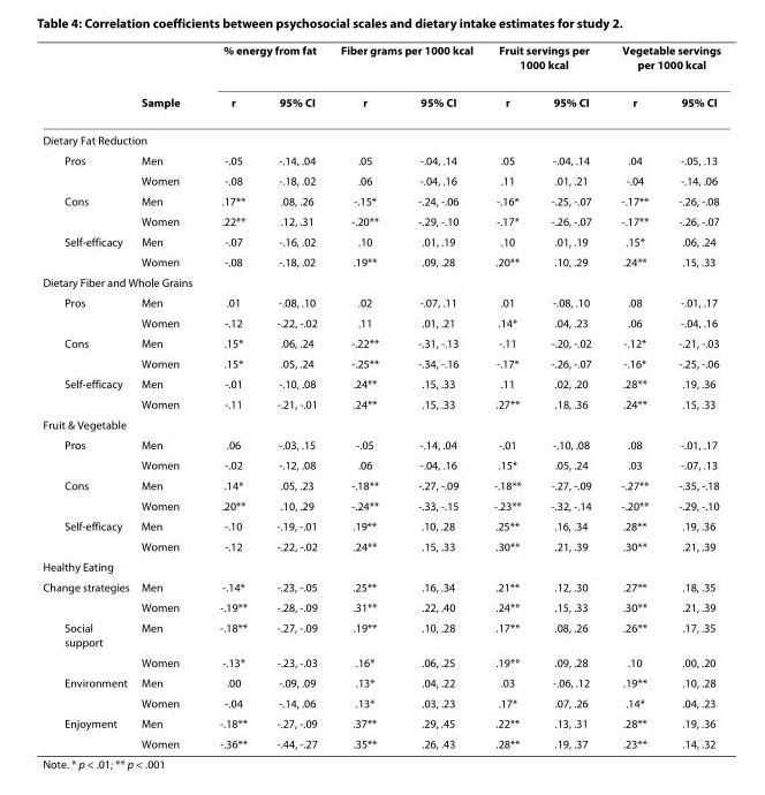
<table><thead><tr><td rowspan="2"></td><td rowspan="2">Sample</td><td colspan="2">% energy from fat</td><td colspan="2">Fiber grams per 1000 kcal</td><td colspan="2">Fruit servings per 1000 kcal</td><td colspan="2">Vegetable servings per 1000 kcal</td></tr><tr><td>r</td><td>95% CI</td><td>r</td><td>95% CI</td><td>r</td><td>95% CI</td><td>r</td><td>95% CI</td></tr></thead><tbody><tr><td colspan="10">Dietary Fat Reduction</td></tr><tr><td rowspan="2">Pros</td><td>Men</td><td>-.05</td><td>-.14, .04</td><td>.05</td><td>-.04, .14</td><td>.05</td><td>-.04, .14</td><td>.04</td><td>-.05, .13</td></tr><tr><td>Women</td><td>-.08</td><td>-.18, .02</td><td>.06</td><td>-.04, .16</td><td>.11</td><td>.01, .21</td><td>-.04</td><td>-.14, .06</td></tr><tr><td rowspan="2">Cons</td><td>Men</td><td>.17**</td><td>.08, .26</td><td>-.15*</td><td>-.24, -.06</td><td>-.16*</td><td>-.25, -.07</td><td>-.17**</td><td>-.26, -.08</td></tr><tr><td>Women</td><td>.22**</td><td>.12, .31</td><td>-.20**</td><td>-.29, -.10</td><td>-.17*</td><td>-.26, -.07</td><td>-.17**</td><td>-.26, -.07</td></tr><tr><td rowspan="2">Self-efficacy</td><td>Men</td><td>-.07</td><td>-.16, .02</td><td>.10</td><td>.01, .19</td><td>.10</td><td>.01, .19</td><td>.15*</td><td>.06, .24</td></tr><tr><td>Women</td><td>-.08</td><td>-.18, .02</td><td>.19**</td><td>.09, .28</td><td>.20**</td><td>.10, .29</td><td>.24**</td><td>.15, .33</td></tr><tr><td colspan="10">Dietary Fiber and Whole Grains</td></tr><tr><td rowspan="2">Pros</td><td>Men</td><td>.01</td><td>-.08, .10</td><td>.02</td><td>-.07, .11</td><td>.01</td><td>-.08, .10</td><td>.08</td><td>-.01, .17</td></tr><tr><td>Women</td><td>-.12</td><td>-.22, -.02</td><td>.11</td><td>.01, .21</td><td>.14*</td><td>.04, .23</td><td>.06</td><td>-.04, .16</td></tr><tr><td rowspan="2">Cons</td><td>Men</td><td>.15*</td><td>.06, .24</td><td>-.22**</td><td>-.31, -.13</td><td>-.11</td><td>-.20, -.02</td><td>-.12*</td><td>-.21, -.03</td></tr><tr><td>Women</td><td>.15*</td><td>.05, .24</td><td>-.25**</td><td>-.34, -.16</td><td>-.17*</td><td>-.26, -.07</td><td>-.16*</td><td>-.25, -.06</td></tr><tr><td rowspan="2">Self-efficacy</td><td>Men</td><td>-.01</td><td>-.10, .08</td><td>.24**</td><td>.15, .33</td><td>.11</td><td>.02, .20</td><td>.28**</td><td>.19, .36</td></tr><tr><td>Women</td><td>-.11</td><td>-.21, -.01</td><td>.24**</td><td>.15, .33</td><td>.27**</td><td>.18, .36</td><td>.24**</td><td>.15, .33</td></tr><tr><td colspan="10">Fruit &amp; Vegetable</td></tr><tr><td rowspan="2">Pros</td><td>Men</td><td>.06</td><td>-.03, .15</td><td>-.05</td><td>-.14, .04</td><td>-.01</td><td>-.10, .08</td><td>.08</td><td>-.01, .17</td></tr><tr><td>Women</td><td>-.02</td><td>-.12, .08</td><td>.06</td><td>-.04, .16</td><td>.15*</td><td>.05, .24</td><td>.03</td><td>-.07, .13</td></tr><tr><td rowspan="2">Cons</td><td>Men</td><td>.14*</td><td>.05, .23</td><td>-.18**</td><td>-.27, -.09</td><td>-.18**</td><td>-.27, -.09</td><td>-.27**</td><td>-.35, -.18</td></tr><tr><td>Women</td><td>.20**</td><td>.10, .29</td><td>-.24**</td><td>-.33, -.15</td><td>-.23**</td><td>-.32, -.14</td><td>-.20**</td><td>-.29, -.10</td></tr><tr><td rowspan="2">Self-efficacy</td><td>Men</td><td>-.10</td><td>-.19, -.01</td><td>.19**</td><td>.10, .28</td><td>.25**</td><td>.16, .34</td><td>.28**</td><td>.19, .36</td></tr><tr><td>Women</td><td>-.12</td><td>-.22, -.02</td><td>.24**</td><td>.15, .33</td><td>.30**</td><td>.21, .39</td><td>.30**</td><td>.21, .39</td></tr><tr><td colspan="10">Healthy Eating</td></tr><tr><td rowspan="2">Change strategies</td><td>Men</td><td>-.14*</td><td>-.23, -.05</td><td>.25**</td><td>.16, .34</td><td>.21**</td><td>.12, .30</td><td>.27**</td><td>.18, .35</td></tr><tr><td>Women</td><td>-.19**</td><td>-.28, -.09</td><td>.31**</td><td>.22, .40</td><td>.24**</td><td>.15, .33</td><td>.30**</td><td>.21, .39</td></tr><tr><td rowspan="2">Social support</td><td>Men</td><td>-.18**</td><td>-.27, -.09</td><td>.19**</td><td>.10, .28</td><td>.17**</td><td>.08, .26</td><td>.26**</td><td>.17, .35</td></tr><tr><td>Women</td><td>-.13*</td><td>-.23, -.03</td><td>.16*</td><td>.06, .25</td><td>.19**</td><td>.09, .28</td><td>.10</td><td>.00, .20</td></tr><tr><td rowspan="2">Environment</td><td>Men</td><td>.00</td><td>-.09, .09</td><td>.13*</td><td>.04, .22</td><td>.03</td><td>-.06, .12</td><td>.19**</td><td>.10, .28</td></tr><tr><td>Women</td><td>-.04</td><td>-.14, .06</td><td>.13*</td><td>.03, .23</td><td>.17*</td><td>.07, .26</td><td>.14*</td><td>.04, .23</td></tr><tr><td rowspan="2">Enjoyment</td><td>Men</td><td>-.18**</td><td>-.27, -.09</td><td>.37**</td><td>.29, .45</td><td>.22**</td><td>.13, .31</td><td>.28**</td><td>.19, .36</td></tr><tr><td>Women</td><td>-.36**</td><td>-.44, -.27</td><td>.35**</td><td>.26, .43</td><td>.28**</td><td>.19, .37</td><td>.23**</td><td>.14, .32</td></tr></tbody></table>